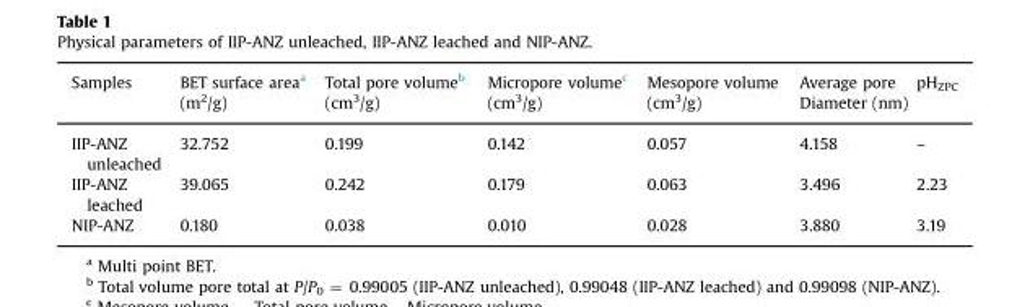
<table><thead><tr><td>Samples</td><td>BET surface area<sup>a</sup> (m<sup>2</sup>/g)</td><td>Total pore volume<sup>b</sup> (cm<sup>3</sup>/g)</td><td>Micropore volume<sup>c</sup> (cm<sup>3</sup>/g)</td><td>Mesopore volume (cm<sup>3</sup>/g)</td><td>Average pore Diameter (nm)</td><td>pH<sub>ZPC</sub></td></tr></thead><tbody><tr><td>IIP-ANZ unleached</td><td>32.752</td><td>0.199</td><td>0.142</td><td>0.057</td><td>4.158</td><td>–</td></tr><tr><td>IIP-ANZ leached</td><td>39.065</td><td>0.242</td><td>0.179</td><td>0.063</td><td>3.496</td><td>2.23</td></tr><tr><td>NIP-ANZ</td><td>0.180</td><td>0.038</td><td>0.010</td><td>0.028</td><td>3.880</td><td>3.19</td></tr></tbody></table>